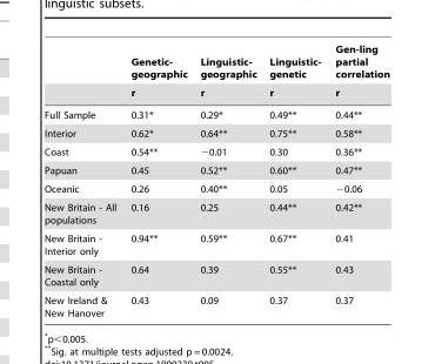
<table><thead><tr><td rowspan="2"></td><td rowspan="2">Genetic- geographic r</td><td rowspan="2">Linguistic- geographic r</td><td rowspan="2">Linguistic- genetic r</td><td rowspan="2">Gen-ling partial correlation r</td></tr><tr></tr></thead><tbody><tr><td>Full Sample</td><td>0.31*</td><td>0.29*</td><td>0.49**</td><td>0.44**</td></tr><tr><td>Interior</td><td>0.62*</td><td>0.64**</td><td>0.75**</td><td>0.58**</td></tr><tr><td>Coast</td><td>0.54**</td><td>−0.01</td><td>0.30</td><td>0.36**</td></tr><tr><td>Papuan</td><td>0.45</td><td>0.52**</td><td>0.60**</td><td>0.47**</td></tr><tr><td>Oceanic</td><td>0.26</td><td>0.40**</td><td>0.05</td><td>−0.06</td></tr><tr><td>New Britain - All populations</td><td>0.16</td><td>0.25</td><td>0.44**</td><td>0.42**</td></tr><tr><td>New Britain - Interior only</td><td>0.94**</td><td>0.59**</td><td>0.67**</td><td>0.41</td></tr><tr><td>New Britain - Coastal only</td><td>0.64</td><td>0.39</td><td>0.55**</td><td>0.43</td></tr><tr><td>New Ireland &amp; New Hanover</td><td>0.43</td><td>0.09</td><td>0.37</td><td>0.37</td></tr></tbody></table>